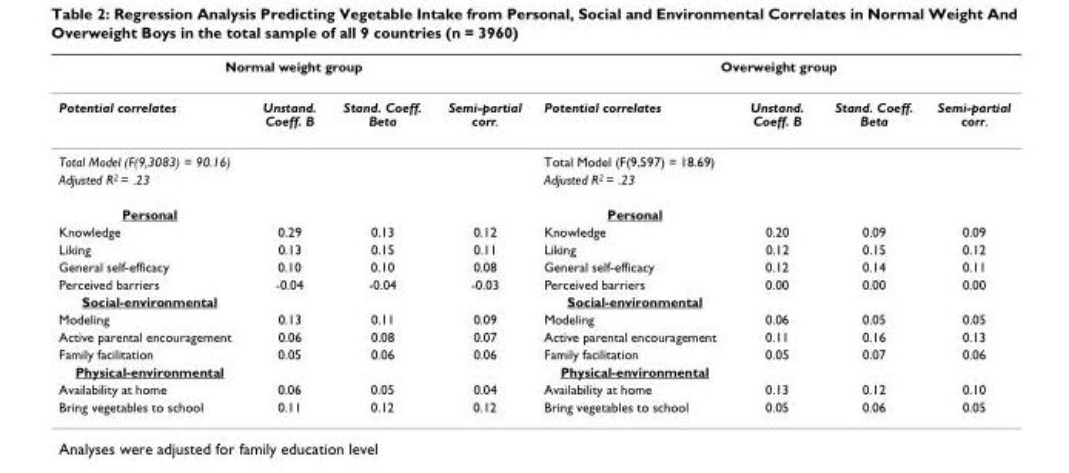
<table><thead><tr><td colspan="4">Normal weight group</td><td colspan="4">Overweight group</td></tr><tr><td>Potential correlates</td><td>Unstand. Coeff. B</td><td>Stand. Coeff. Beta</td><td>Semi-partial corr.</td><td>Potential correlates</td><td>Unstand. Coeff. B</td><td>Stand. Coeff. Beta</td><td>Semi-partial corr.</td></tr></thead><tbody><tr><td>Total Model (F(9,3083) = 90.16)</td><td></td><td></td><td></td><td>Total Model (F(9,597) = 18.69)</td><td></td><td></td><td></td></tr><tr><td>Adjusted R<sup>2</sup> = .23</td><td></td><td></td><td></td><td>Adjusted R<sup>2</sup> = .23</td><td></td><td></td><td></td></tr><tr><td>Personal</td><td></td><td></td><td></td><td>Personal</td><td></td><td></td><td></td></tr><tr><td>Knowledge</td><td>0.29</td><td>0.13</td><td>0.12</td><td>Knowledge</td><td>0.20</td><td>0.09</td><td>0.09</td></tr><tr><td>Liking</td><td>0.13</td><td>0.15</td><td>0.11</td><td>Liking</td><td>0.12</td><td>0.15</td><td>0.12</td></tr><tr><td>General self-efficacy</td><td>0.10</td><td>0.10</td><td>0.08</td><td>General self-efficacy</td><td>0.12</td><td>0.14</td><td>0.11</td></tr><tr><td>Perceived barriers</td><td>-0.04</td><td>-0.04</td><td>-0.03</td><td>Perceived barriers</td><td>0.00</td><td>0.00</td><td>0.00</td></tr><tr><td>Social-environmental</td><td></td><td></td><td></td><td>Social-environmental</td><td></td><td></td><td></td></tr><tr><td>Modeling</td><td>0.13</td><td>0.11</td><td>0.09</td><td>Modeling</td><td>0.06</td><td>0.05</td><td>0.05</td></tr><tr><td>Active parental encouragement</td><td>0.06</td><td>0.08</td><td>0.07</td><td>Active parental encouragement</td><td>0.11</td><td>0.16</td><td>0.13</td></tr><tr><td>Family facilitation</td><td>0.05</td><td>0.06</td><td>0.06</td><td>Family facilitation</td><td>0.05</td><td>0.07</td><td>0.06</td></tr><tr><td>Physical-environmental</td><td></td><td></td><td></td><td>Physical-environmental</td><td></td><td></td><td></td></tr><tr><td>Availability at home</td><td>0.06</td><td>0.05</td><td>0.04</td><td>Availability at home</td><td>0.13</td><td>0.12</td><td>0.10</td></tr><tr><td>Bring vegetables to school</td><td>0.11</td><td>0.12</td><td>0.12</td><td>Bring vegetables to school</td><td>0.05</td><td>0.06</td><td>0.05</td></tr></tbody></table>